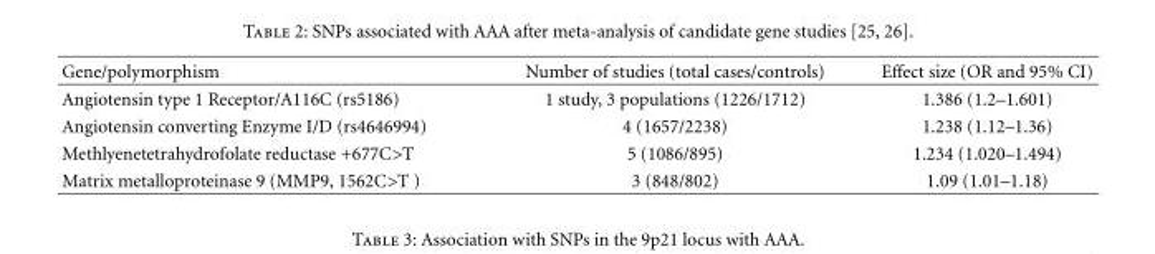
<table><thead><tr><td>Gene/polymorphism</td><td>Number of studies (total cases/controls)</td><td>Effect size (OR and 95% CI)</td></tr></thead><tbody><tr><td>Angiotensin type 1 Receptor/A116C (rs5186)</td><td>1 study, 3 populations (1226/1712)</td><td>1.386 (1.2–1.601)</td></tr><tr><td>Angiotensin converting Enzyme I/D (rs4646994)</td><td>4 (1657/2238)</td><td>1.238 (1.12–1.36)</td></tr><tr><td>Methlyenetetrahydrofolate reductase +677C&gt;T</td><td>5 (1086/895)</td><td>1.234 (1.020–1.494)</td></tr><tr><td>Matrix metalloproteinase 9 (MMP9, 1562C&gt;T )</td><td>3 (848/802)</td><td>1.09 (1.01–1.18)</td></tr></tbody></table>